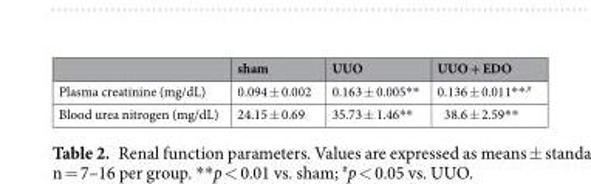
<table><thead><tr><td></td><td>sham</td><td>UUO</td><td>UUO + EDO</td></tr></thead><tbody><tr><td>Plasma creatinine (mg/dL)</td><td>0.094 ± 0.002</td><td>0.163 ± 0.005**</td><td>0.136 ± 0.011**<sup>,#</sup></td></tr><tr><td>Blood urea nitrogen (mg/dL)</td><td>24.15 ± 0.69</td><td>35.73 ± 1.46**</td><td>38.6 ± 2.59**</td></tr></tbody></table>